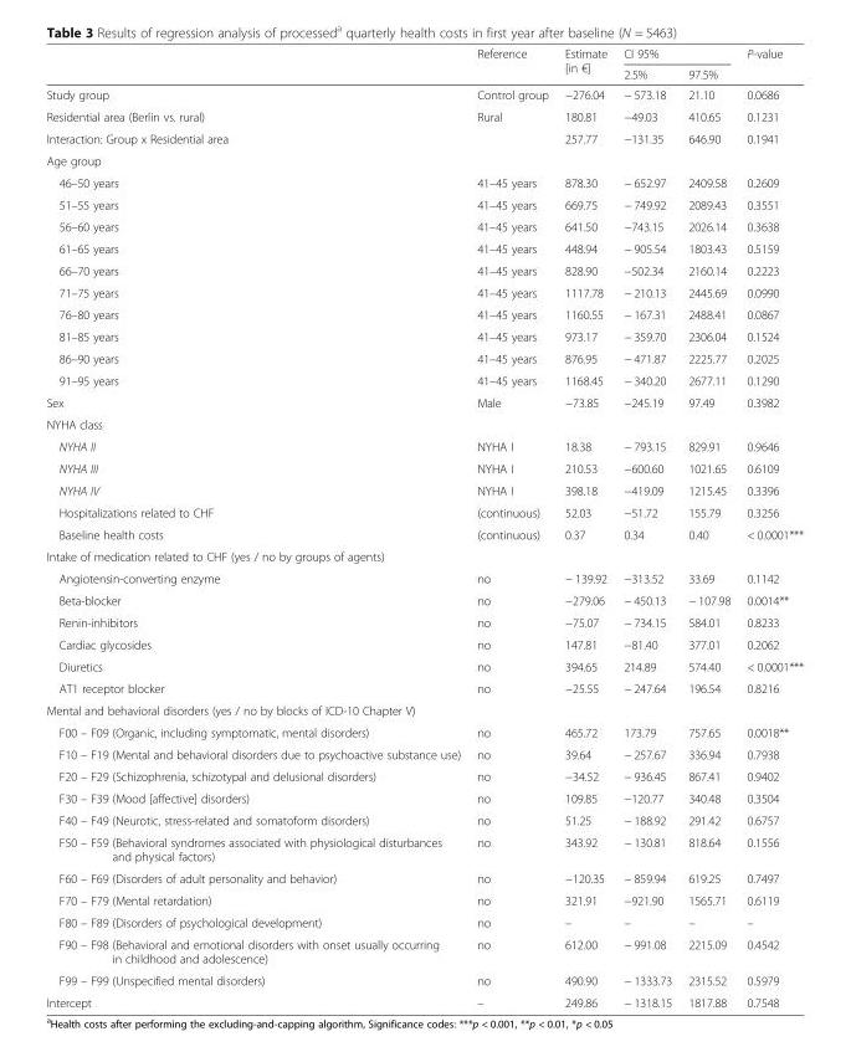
<table><thead><tr><td rowspan="2"></td><td rowspan="2">Reference</td><td rowspan="2">Estimate [in €]</td><td colspan="2">CI 95%</td><td rowspan="2">P-value</td></tr><tr><td>2.5%</td><td>97.5%</td></tr></thead><tbody><tr><td>Study group</td><td>Control group</td><td>−276.04</td><td>− 573.18</td><td>21.10</td><td>0.0686</td></tr><tr><td>Residential area (Berlin vs. rural)</td><td>Rural</td><td>180.81</td><td>−49.03</td><td>410.65</td><td>0.1231</td></tr><tr><td colspan="2">Interaction: Group x Residential area</td><td>257.77</td><td>−131.35</td><td>646.90</td><td>0.1941</td></tr><tr><td colspan="6">Age group</td></tr><tr><td>46–50 years</td><td>41–45 years</td><td>878.30</td><td>− 652.97</td><td>2409.58</td><td>0.2609</td></tr><tr><td>51–55 years</td><td>41–45 years</td><td>669.75</td><td>− 749.92</td><td>2089.43</td><td>0.3551</td></tr><tr><td>56–60 years</td><td>41–45 years</td><td>641.50</td><td>−743.15</td><td>2026.14</td><td>0.3638</td></tr><tr><td>61–65 years</td><td>41–45 years</td><td>448.94</td><td>− 905.54</td><td>1803.43</td><td>0.5159</td></tr><tr><td>66–70 years</td><td>41–45 years</td><td>828.90</td><td>−502.34</td><td>2160.14</td><td>0.2223</td></tr><tr><td>71–75 years</td><td>41–45 years</td><td>1117.78</td><td>− 210.13</td><td>2445.69</td><td>0.0990</td></tr><tr><td>76–80 years</td><td>41–45 years</td><td>1160.55</td><td>− 167.31</td><td>2488.41</td><td>0.0867</td></tr><tr><td>81–85 years</td><td>41–45 years</td><td>973.17</td><td>− 359.70</td><td>2306.04</td><td>0.1524</td></tr><tr><td>86–90 years</td><td>41–45 years</td><td>876.95</td><td>− 471.87</td><td>2225.77</td><td>0.2025</td></tr><tr><td>91–95 years</td><td>41–45 years</td><td>1168.45</td><td>− 340.20</td><td>2677.11</td><td>0.1290</td></tr><tr><td>Sex</td><td>Male</td><td>−73.85</td><td>−245.19</td><td>97.49</td><td>0.3982</td></tr><tr><td colspan="6">NYHA class</td></tr><tr><td>NYHA II</td><td>NYHA I</td><td>18.38</td><td>− 793.15</td><td>829.91</td><td>0.9646</td></tr><tr><td>NYHA III</td><td>NYHA I</td><td>210.53</td><td>−600.60</td><td>1021.65</td><td>0.6109</td></tr><tr><td>NYHA IV</td><td>NYHA I</td><td>398.18</td><td>−419.09</td><td>1215.45</td><td>0.3396</td></tr><tr><td>Hospitalizations related to CHF</td><td>(continuous)</td><td>52.03</td><td>−51.72</td><td>155.79</td><td>0.3256</td></tr><tr><td>Baseline health costs</td><td>(continuous)</td><td>0.37</td><td>0.34</td><td>0.40</td><td>&lt; 0.0001***</td></tr><tr><td colspan="6">Intake of medication related to CHF (yes / no by groups of agents)</td></tr><tr><td>Angiotensin-converting enzyme</td><td>no</td><td>− 139.92</td><td>−313.52</td><td>33.69</td><td>0.1142</td></tr><tr><td>Beta-blocker</td><td>no</td><td>−279.06</td><td>− 450.13</td><td>− 107.98</td><td>0.0014**</td></tr><tr><td>Renin-inhibitors</td><td>no</td><td>−75.07</td><td>− 734.15</td><td>584.01</td><td>0.8233</td></tr><tr><td>Cardiac glycosides</td><td>no</td><td>147.81</td><td>−81.40</td><td>377.01</td><td>0.2062</td></tr><tr><td>Diuretics</td><td>no</td><td>394.65</td><td>214.89</td><td>574.40</td><td>&lt; 0.0001***</td></tr><tr><td>AT1 receptor blocker</td><td>no</td><td>−25.55</td><td>− 247.64</td><td>196.54</td><td>0.8216</td></tr><tr><td colspan="6">Mental and behavioral disorders (yes / no by blocks of ICD-10 Chapter V)</td></tr><tr><td>F00 – F09 (Organic, including symptomatic, mental disorders)</td><td>no</td><td>465.72</td><td>173.79</td><td>757.65</td><td>0.0018**</td></tr><tr><td>F10 – F19 (Mental and behavioral disorders due to psychoactive substance use)</td><td>no</td><td>39.64</td><td>− 257.67</td><td>336.94</td><td>0.7938</td></tr><tr><td>F20 – F29 (Schizophrenia, schizotypal and delusional disorders)</td><td>no</td><td>−34.52</td><td>− 936.45</td><td>867.41</td><td>0.9402</td></tr><tr><td>F30 – F39 (Mood [affective] disorders)</td><td>no</td><td>109.85</td><td>−120.77</td><td>340.48</td><td>0.3504</td></tr><tr><td>F40 – F49 (Neurotic, stress-related and somatoform disorders)</td><td>no</td><td>51.25</td><td>− 188.92</td><td>291.42</td><td>0.6757</td></tr><tr><td>F50 – F59 (Behavioral syndromes associated with physiological disturbances and physical factors)</td><td>no</td><td>343.92</td><td>− 130.81</td><td>818.64</td><td>0.1556</td></tr><tr><td>F60 – F69 (Disorders of adult personality and behavior)</td><td>no</td><td>−120.35</td><td>− 859.94</td><td>619.25</td><td>0.7497</td></tr><tr><td>F70 – F79 (Mental retardation)</td><td>no</td><td>321.91</td><td>−921.90</td><td>1565.71</td><td>0.6119</td></tr><tr><td>F80 – F89 (Disorders of psychological development)</td><td>no</td><td>–</td><td>–</td><td>–</td><td>–</td></tr><tr><td>F90 – F98 (Behavioral and emotional disorders with onset usually occurring in childhood and adolescence)</td><td>no</td><td>612.00</td><td>− 991.08</td><td>2215.09</td><td>0.4542</td></tr><tr><td>F99 – F99 (Unspecified mental disorders)</td><td>no</td><td>490.90</td><td>− 1333.73</td><td>2315.52</td><td>0.5979</td></tr><tr><td>Intercept</td><td>–</td><td>249.86</td><td>− 1318.15</td><td>1817.88</td><td>0.7548</td></tr></tbody></table>